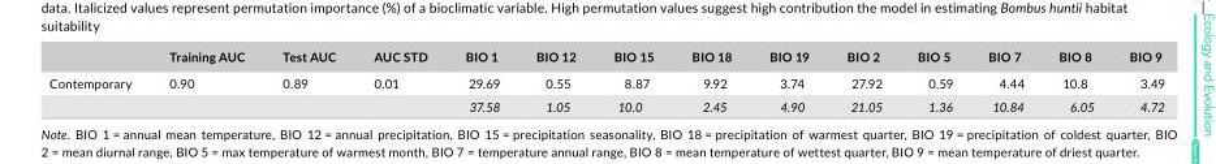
<table><thead><tr><td></td><td>Training AUC</td><td>Test AUC</td><td>AUC STD</td><td>BIO 1</td><td>BIO 12</td><td>BIO 15</td><td>BIO 18</td><td>BIO 19</td><td>BIO 2</td><td>BIO 5</td><td>BIO 7</td><td>BIO 8</td><td>BIO 9</td></tr></thead><tbody><tr><td rowspan="2">Contemporary</td><td>0.90</td><td>0.89</td><td>0.01</td><td>29.69</td><td>0.55</td><td>8.87</td><td>9.92</td><td>3.74</td><td>27.92</td><td>0.59</td><td>4.44</td><td>10.8</td><td>3.49</td></tr><tr><td></td><td></td><td></td><td>37.58</td><td>1.05</td><td>10.0</td><td>2.45</td><td>4.90</td><td>21.05</td><td>1.36</td><td>10.84</td><td>6.05</td><td>4.72</td></tr></tbody></table>